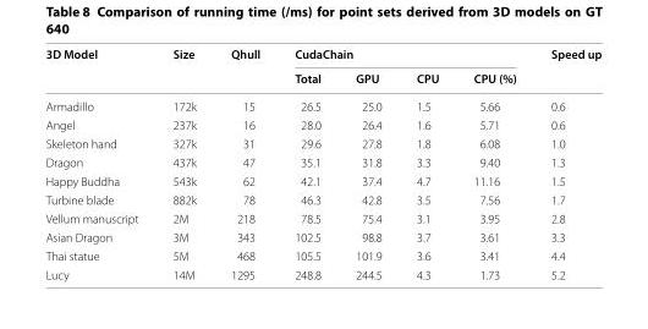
<table><thead><tr><td rowspan="2">3D Model</td><td rowspan="2">Size</td><td rowspan="2">Qhull</td><td colspan="4">CudaChain</td><td rowspan="2">Speed up</td></tr><tr><td>Total</td><td>GPU</td><td>CPU</td><td>CPU (%)</td></tr></thead><tbody><tr><td>Armadillo</td><td>172k</td><td>15</td><td>26.5</td><td>25.0</td><td>1.5</td><td>5.66</td><td>0.6</td></tr><tr><td>Angel</td><td>237k</td><td>16</td><td>28.0</td><td>26.4</td><td>1.6</td><td>5.71</td><td>0.6</td></tr><tr><td>Skeleton hand</td><td>327k</td><td>31</td><td>29.6</td><td>27.8</td><td>1.8</td><td>6.08</td><td>1.0</td></tr><tr><td>Dragon</td><td>437k</td><td>47</td><td>35.1</td><td>31.8</td><td>3.3</td><td>9.40</td><td>1.3</td></tr><tr><td>Happy Buddha</td><td>543k</td><td>62</td><td>42.1</td><td>37.4</td><td>4.7</td><td>11.16</td><td>1.5</td></tr><tr><td>Turbine blade</td><td>882k</td><td>78</td><td>46.3</td><td>42.8</td><td>3.5</td><td>7.56</td><td>1.7</td></tr><tr><td>Vellum manuscript</td><td>2M</td><td>218</td><td>78.5</td><td>75.4</td><td>3.1</td><td>3.95</td><td>2.8</td></tr><tr><td>Asian Dragon</td><td>3M</td><td>343</td><td>102.5</td><td>98.8</td><td>3.7</td><td>3.61</td><td>3.3</td></tr><tr><td>Thai statue</td><td>5M</td><td>468</td><td>105.5</td><td>101.9</td><td>3.6</td><td>3.41</td><td>4.4</td></tr><tr><td>Lucy</td><td>14M</td><td>1295</td><td>248.8</td><td>244.5</td><td>4.3</td><td>1.73</td><td>5.2</td></tr></tbody></table>